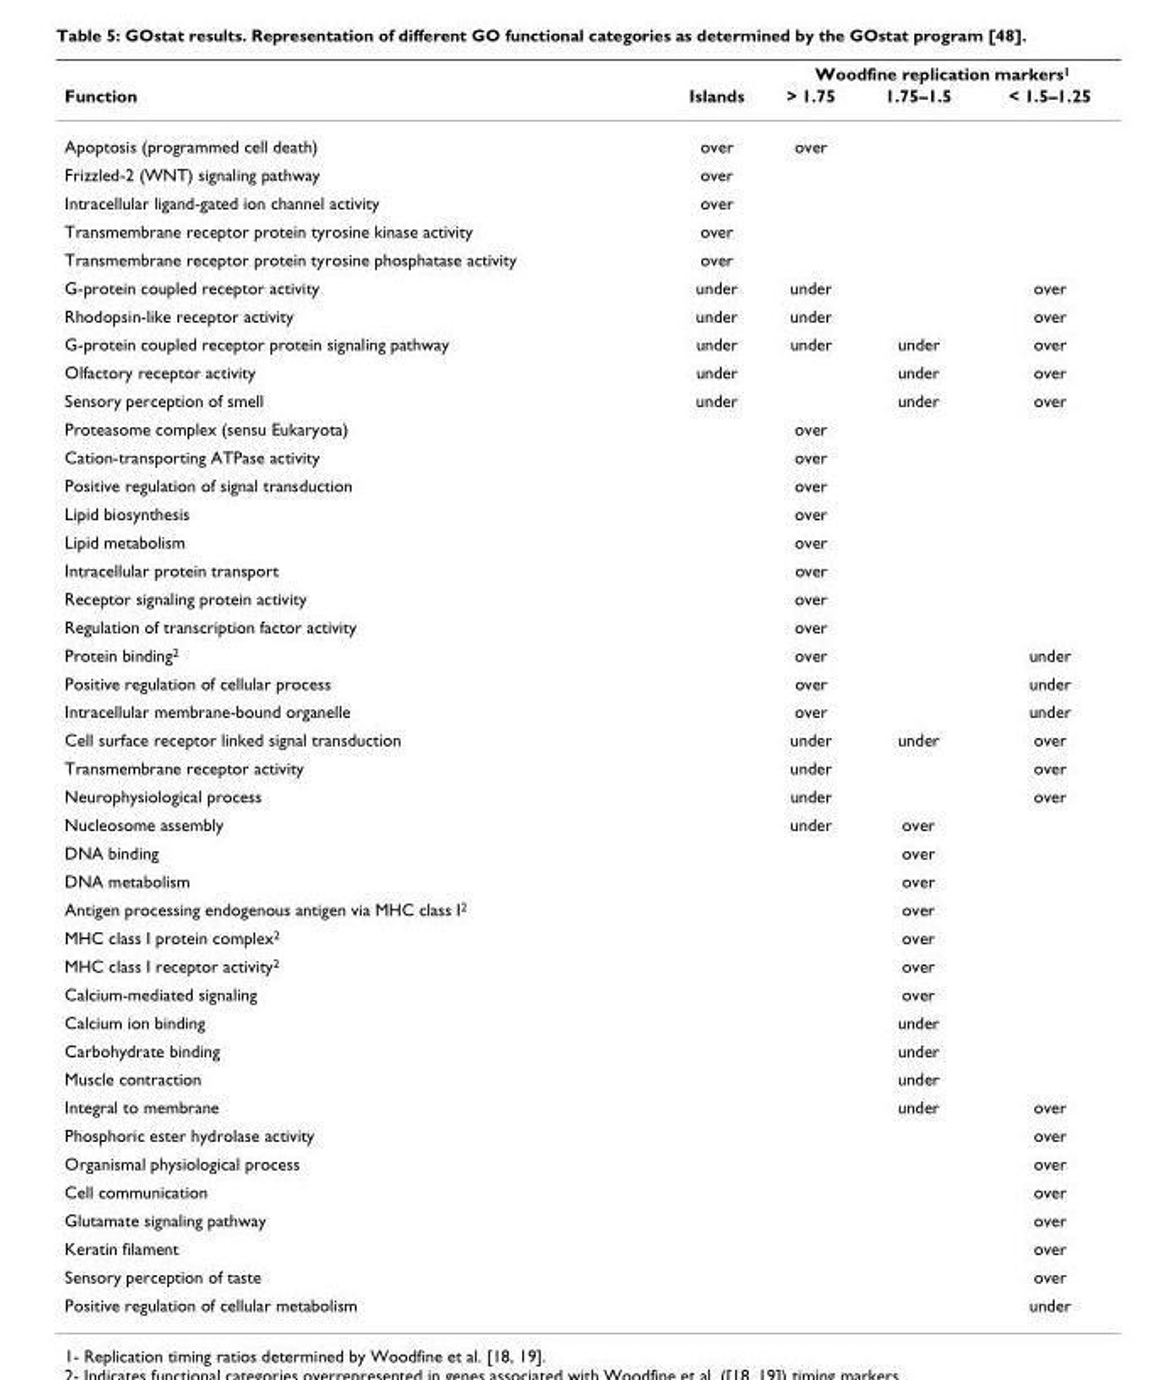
<table><thead><tr><td rowspan="2">Function</td><td rowspan="2">Islands</td><td colspan="3">Woodfine replication markers1</td></tr><tr><td>&gt; 1.75</td><td>1.75–1.5</td><td>&lt; 1.5–1.25</td></tr></thead><tbody><tr><td>Apoptosis (programmed cell death)</td><td>over</td><td>over</td><td></td><td></td></tr><tr><td>Frizzled-2 (WNT) signaling pathway</td><td>over</td><td></td><td></td><td></td></tr><tr><td>Intracellular ligand-gated ion channel activity</td><td>over</td><td></td><td></td><td></td></tr><tr><td>Transmembrane receptor protein tyrosine kinase activity</td><td>over</td><td></td><td></td><td></td></tr><tr><td>Transmembrane receptor protein tyrosine phosphatase activity</td><td>over</td><td></td><td></td><td></td></tr><tr><td>G-protein coupled receptor activity</td><td>under</td><td>under</td><td></td><td>over</td></tr><tr><td>Rhodopsin-like receptor activity</td><td>under</td><td>under</td><td></td><td>over</td></tr><tr><td>G-protein coupled receptor protein signaling pathway</td><td>under</td><td>under</td><td>under</td><td>over</td></tr><tr><td>Olfactory receptor activity</td><td>under</td><td></td><td>under</td><td>over</td></tr><tr><td>Sensory perception of smell</td><td>under</td><td></td><td>under</td><td>over</td></tr><tr><td>Proteasome complex (sensu Eukaryota)</td><td></td><td>over</td><td></td><td></td></tr><tr><td>Cation-transporting ATPase activity</td><td></td><td>over</td><td></td><td></td></tr><tr><td>Positive regulation of signal transduction</td><td></td><td>over</td><td></td><td></td></tr><tr><td>Lipid biosynthesis</td><td></td><td>over</td><td></td><td></td></tr><tr><td>Lipid metabolism</td><td></td><td>over</td><td></td><td></td></tr><tr><td>Intracellular protein transport</td><td></td><td>over</td><td></td><td></td></tr><tr><td>Receptor signaling protein activity</td><td></td><td>over</td><td></td><td></td></tr><tr><td>Regulation of transcription factor activity</td><td></td><td>over</td><td></td><td></td></tr><tr><td>Protein binding2</td><td></td><td>over</td><td></td><td>under</td></tr><tr><td>Positive regulation of cellular process</td><td></td><td>over</td><td></td><td>under</td></tr><tr><td>Intracellular membrane-bound organelle</td><td></td><td>over</td><td></td><td>under</td></tr><tr><td>Cell surface receptor linked signal transduction</td><td></td><td>under</td><td>under</td><td>over</td></tr><tr><td>Transmembrane receptor activity</td><td></td><td>under</td><td></td><td>over</td></tr><tr><td>Neurophysiological process</td><td></td><td>under</td><td></td><td>over</td></tr><tr><td>Nucleosome assembly</td><td></td><td>under</td><td>over</td><td></td></tr><tr><td>DNA binding</td><td></td><td></td><td>over</td><td></td></tr><tr><td>DNA metabolism</td><td></td><td></td><td>over</td><td></td></tr><tr><td>Antigen processing endogenous antigen via MHC class I2</td><td></td><td></td><td>over</td><td></td></tr><tr><td>MHC class I protein complex2</td><td></td><td></td><td>over</td><td></td></tr><tr><td>MHC class I receptor activity2</td><td></td><td></td><td>over</td><td></td></tr><tr><td>Calcium-mediated signaling</td><td></td><td></td><td>over</td><td></td></tr><tr><td>Calcium ion binding</td><td></td><td></td><td>under</td><td></td></tr><tr><td>Carbohydrate binding</td><td></td><td></td><td>under</td><td></td></tr><tr><td>Muscle contraction</td><td></td><td></td><td>under</td><td></td></tr><tr><td>Integral to membrane</td><td></td><td></td><td>under</td><td>over</td></tr><tr><td>Phosphoric ester hydrolase activity</td><td></td><td></td><td></td><td>over</td></tr><tr><td>Organismal physiological process</td><td></td><td></td><td></td><td>over</td></tr><tr><td>Cell communication</td><td></td><td></td><td></td><td>over</td></tr><tr><td>Glutamate signaling pathway</td><td></td><td></td><td></td><td>over</td></tr><tr><td>Keratin filament</td><td></td><td></td><td></td><td>over</td></tr><tr><td>Sensory perception of taste</td><td></td><td></td><td></td><td>over</td></tr><tr><td>Positive regulation of cellular metabolism</td><td></td><td></td><td></td><td>under</td></tr></tbody></table>